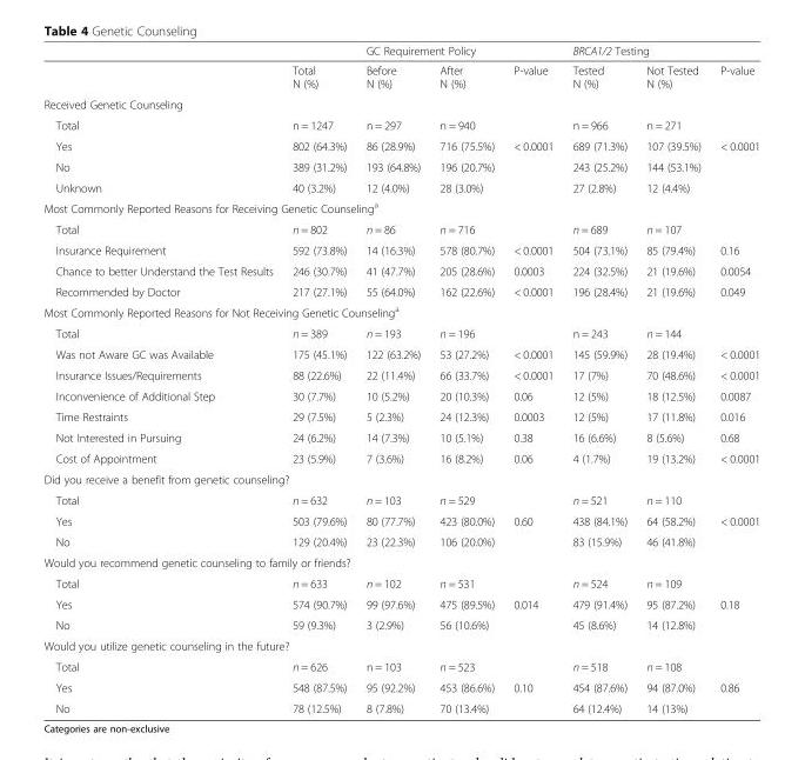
<table><thead><tr><td rowspan="2"></td><td rowspan="2">Total N (%)</td><td colspan="3">GC Requirement Policy</td><td colspan="3">BRCA1/2 Testing</td></tr><tr><td>Before N (%)</td><td>After N (%)</td><td>P-value</td><td>Tested N (%)</td><td>Not Tested N (%)</td><td>P-value</td></tr></thead><tbody><tr><td colspan="8">Received Genetic Counseling</td></tr><tr><td>Total</td><td>n = 1247</td><td>n = 297</td><td>n = 940</td><td></td><td>n = 966</td><td>n = 271</td><td></td></tr><tr><td>Yes</td><td>802 (64.3%)</td><td>86 (28.9%)</td><td>716 (75.5%)</td><td rowspan="3">&lt; 0.0001</td><td>689 (71.3%)</td><td>107 (39.5%)</td><td rowspan="3">&lt; 0.0001</td></tr><tr><td>No</td><td>389 (31.2%)</td><td>193 (64.8%)</td><td>196 (20.7%)</td><td>243 (25.2%)</td><td>144 (53.1%)</td></tr><tr><td>Unknown</td><td>40 (3.2%)</td><td>12 (4.0%)</td><td>28 (3.0%)</td><td>27 (2.8%)</td><td>12 (4.4%)</td></tr><tr><td colspan="8">Most Commonly Reported Reasons for Receiving Genetic Counseling<sup>a</sup></td></tr><tr><td>Total</td><td>n = 802</td><td>n = 86</td><td>n = 716</td><td></td><td>n = 689</td><td>n = 107</td><td></td></tr><tr><td>Insurance Requirement</td><td>592 (73.8%)</td><td>14 (16.3%)</td><td>578 (80.7%)</td><td>&lt; 0.0001</td><td>504 (73.1%)</td><td>85 (79.4%)</td><td>0.16</td></tr><tr><td>Chance to better Understand the Test Results</td><td>246 (30.7%)</td><td>41 (47.7%)</td><td>205 (28.6%)</td><td>0.0003</td><td>224 (32.5%)</td><td>21 (19.6%)</td><td>0.0054</td></tr><tr><td>Recommended by Doctor</td><td>217 (27.1%)</td><td>55 (64.0%)</td><td>162 (22.6%)</td><td>&lt; 0.0001</td><td>196 (28.4%)</td><td>21 (19.6%)</td><td>0.049</td></tr><tr><td colspan="8">Most Commonly Reported Reasons for Not Receiving Genetic Counseling<sup>a</sup></td></tr><tr><td>Total</td><td>n = 389</td><td>n = 193</td><td>n = 196</td><td></td><td>n = 243</td><td>n = 144</td><td></td></tr><tr><td>Was not Aware GC was Available</td><td>175 (45.1%)</td><td>122 (63.2%)</td><td>53 (27.2%)</td><td>&lt; 0.0001</td><td>145 (59.9%)</td><td>28 (19.4%)</td><td>&lt; 0.0001</td></tr><tr><td>Insurance Issues/Requirements</td><td>88 (22.6%)</td><td>22 (11.4%)</td><td>66 (33.7%)</td><td>&lt; 0.0001</td><td>17 (7%)</td><td>70 (48.6%)</td><td>&lt; 0.0001</td></tr><tr><td>Inconvenience of Additional Step</td><td>30 (7.7%)</td><td>10 (5.2%)</td><td>20 (10.3%)</td><td>0.06</td><td>12 (5%)</td><td>18 (12.5%)</td><td>0.0087</td></tr><tr><td>Time Restraints</td><td>29 (7.5%)</td><td>5 (2.3%)</td><td>24 (12.3%)</td><td>0.0003</td><td>12 (5%)</td><td>17 (11.8%)</td><td>0.016</td></tr><tr><td>Not Interested in Pursuing</td><td>24 (6.2%)</td><td>14 (7.3%)</td><td>10 (5.1%)</td><td>0.38</td><td>16 (6.6%)</td><td>8 (5.6%)</td><td>0.68</td></tr><tr><td>Cost of Appointment</td><td>23 (5.9%)</td><td>7 (3.6%)</td><td>16 (8.2%)</td><td>0.06</td><td>4 (1.7%)</td><td>19 (13.2%)</td><td>&lt; 0.0001</td></tr><tr><td colspan="8">Did you receive a benefit from genetic counseling?</td></tr><tr><td>Total</td><td>n = 632</td><td>n = 103</td><td>n = 529</td><td></td><td>n = 521</td><td>n = 110</td><td></td></tr><tr><td>Yes</td><td>503 (79.6%)</td><td>80 (77.7%)</td><td>423 (80.0%)</td><td rowspan="2">0.60</td><td>438 (84.1%)</td><td>64 (58.2%)</td><td rowspan="2">&lt; 0.0001</td></tr><tr><td>No</td><td>129 (20.4%)</td><td>23 (22.3%)</td><td>106 (20.0%)</td><td>83 (15.9%)</td><td>46 (41.8%)</td></tr><tr><td colspan="8">Would you recommend genetic counseling to family or friends?</td></tr><tr><td>Total</td><td>n = 633</td><td>n = 102</td><td>n = 531</td><td></td><td>n = 524</td><td>n = 109</td><td></td></tr><tr><td>Yes</td><td>574 (90.7%)</td><td>99 (97.6%)</td><td>475 (89.5%)</td><td rowspan="2">0.014</td><td>479 (91.4%)</td><td>95 (87.2%)</td><td rowspan="2">0.18</td></tr><tr><td>No</td><td>59 (9.3%)</td><td>3 (2.9%)</td><td>56 (10.6%)</td><td>45 (8.6%)</td><td>14 (12.8%)</td></tr><tr><td colspan="8">Would you utilize genetic counseling in the future?</td></tr><tr><td>Total</td><td>n = 626</td><td>n = 103</td><td>n = 523</td><td></td><td>n = 518</td><td>n = 108</td><td></td></tr><tr><td>Yes</td><td>548 (87.5%)</td><td>95 (92.2%)</td><td>453 (86.6%)</td><td rowspan="2">0.10</td><td>454 (87.6%)</td><td>94 (87.0%)</td><td rowspan="2">0.86</td></tr><tr><td>No</td><td>78 (12.5%)</td><td>8 (7.8%)</td><td>70 (13.4%)</td><td>64 (12.4%)</td><td>14 (13%)</td></tr></tbody></table>